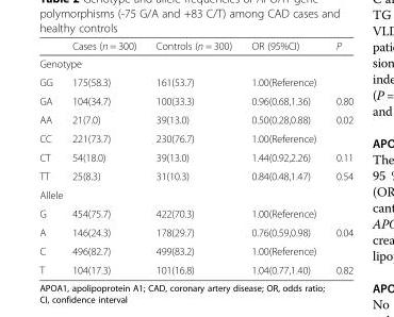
<table><thead><tr><td></td><td>Cases (n = 300)</td><td>Controls (n = 300)</td><td>OR (95%CI)</td><td>P</td></tr></thead><tbody><tr><td colspan="5">Genotype</td></tr><tr><td>GG</td><td>175(58.3)</td><td>161(53.7)</td><td>1.00(Reference)</td><td></td></tr><tr><td>GA</td><td>104(34.7)</td><td>100(33.3)</td><td>0.96(0.68,1.36)</td><td>0.80</td></tr><tr><td>AA</td><td>21(7.0)</td><td>39(13.0)</td><td>0.50(0.28,0.88)</td><td>0.02</td></tr><tr><td>CC</td><td>221(73.7)</td><td>230(76.7)</td><td>1.00(Reference)</td><td></td></tr><tr><td>CT</td><td>54(18.0)</td><td>39(13.0)</td><td>1.44(0.92,2.26)</td><td>0.11</td></tr><tr><td>TT</td><td>25(8.3)</td><td>31(10.3)</td><td>0.84(0.48,1.47)</td><td>0.54</td></tr><tr><td colspan="5">Allele</td></tr><tr><td>G</td><td>454(75.7)</td><td>422(70.3)</td><td>1.00(Reference)</td><td></td></tr><tr><td>A</td><td>146(24.3)</td><td>178(29.7)</td><td>0.76(0.59,0.98)</td><td>0.04</td></tr><tr><td>C</td><td>496(82.7)</td><td>499(83.2)</td><td>1.00(Reference)</td><td></td></tr><tr><td>T</td><td>104(17.3)</td><td>101(16.8)</td><td>1.04(0.77,1.40)</td><td>0.82</td></tr></tbody></table>